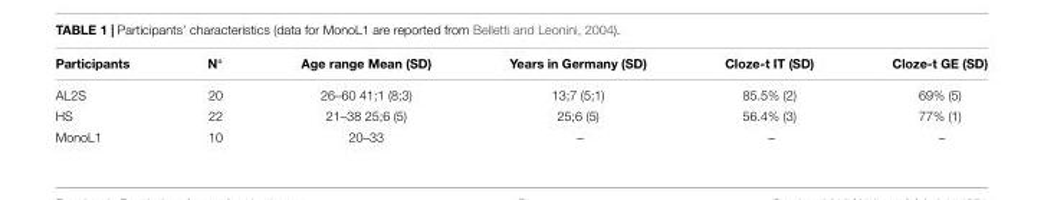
<table><thead><tr><td>Participants</td><td>N◦</td><td>Age range Mean (SD)</td><td>Years in Germany (SD)</td><td>Cloze-t IT (SD)</td><td>Cloze-t GE (SD)</td></tr></thead><tbody><tr><td>AL2S</td><td>20</td><td>26–60 41;1 (8;3)</td><td>13;7 (5;1)</td><td>85.5% (2)</td><td>69% (5)</td></tr><tr><td>HS</td><td>22</td><td>21–38 25;6 (5)</td><td>25;6 (5)</td><td>56.4% (3)</td><td>77% (1)</td></tr><tr><td>MonoL1</td><td>10</td><td>20–33</td><td>–</td><td>–</td><td>–</td></tr></tbody></table>